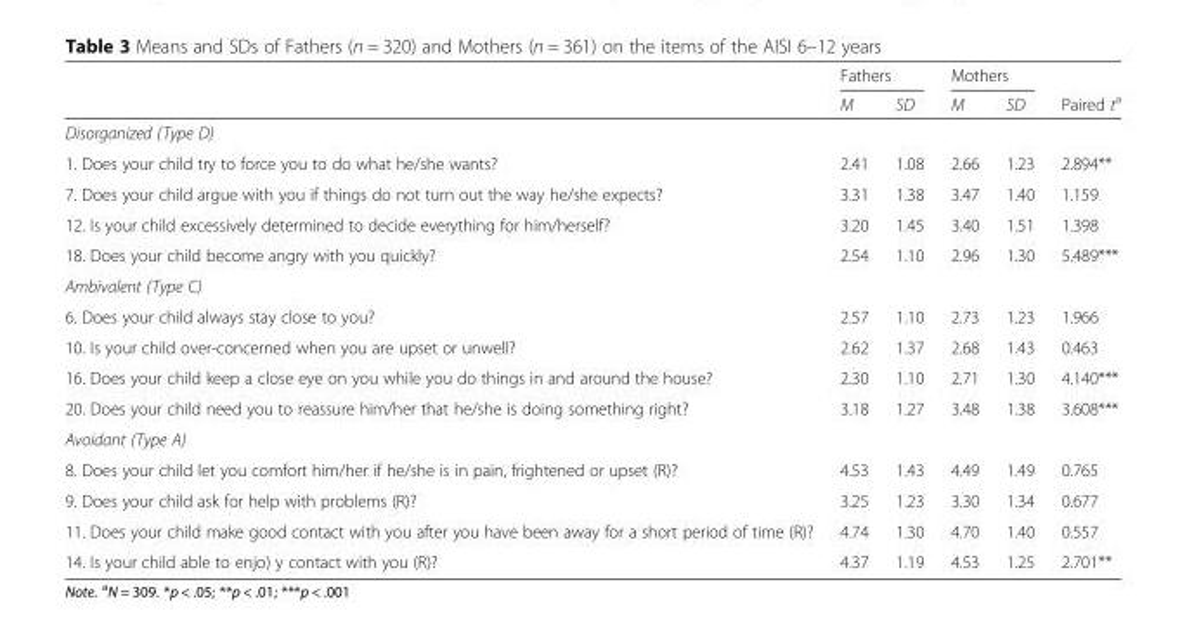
<table><thead><tr><td rowspan="2"></td><td colspan="2">Fathers</td><td colspan="2">Mothers</td><td rowspan="2">Paired t<sup>a</sup></td></tr><tr><td>M</td><td>SD</td><td>M</td><td>SD</td></tr></thead><tbody><tr><td colspan="6">Disorganized (Type D)</td></tr><tr><td>1. Does your child try to force you to do what he/she wants?</td><td>2.41</td><td>1.08</td><td>2.66</td><td>1.23</td><td>2.894**</td></tr><tr><td>7. Does your child argue with you if things do not turn out the way he/she expects?</td><td>3.31</td><td>1.38</td><td>3.47</td><td>1.40</td><td>1.159</td></tr><tr><td>12. Is your child excessively determined to decide everything for him/herself?</td><td>3.20</td><td>1.45</td><td>3.40</td><td>1.51</td><td>1.398</td></tr><tr><td>18. Does your child become angry with you quickly?</td><td>2.54</td><td>1.10</td><td>2.96</td><td>1.30</td><td>5.489***</td></tr><tr><td colspan="6">Ambivalent (Type C)</td></tr><tr><td>6. Does your child always stay close to you?</td><td>2.57</td><td>1.10</td><td>2.73</td><td>1.23</td><td>1.966</td></tr><tr><td>10. Is your child over-concerned when you are upset or unwell?</td><td>2.62</td><td>1.37</td><td>2.68</td><td>1.43</td><td>0.463</td></tr><tr><td>16. Does your child keep a close eye on you while you do things in and around the house?</td><td>2.30</td><td>1.10</td><td>2.71</td><td>1.30</td><td>4.140***</td></tr><tr><td>20. Does your child need you to reassure him/her that he/she is doing something right?</td><td>3.18</td><td>1.27</td><td>3.48</td><td>1.38</td><td>3.608***</td></tr><tr><td colspan="6">Avoidant (Type A)</td></tr><tr><td>8. Does your child let you comfort him/her if he/she is in pain, frightened or upset (R)?</td><td>4.53</td><td>1.43</td><td>4.49</td><td>1.49</td><td>0.765</td></tr><tr><td>9. Does your child ask for help with problems (R)?</td><td>3.25</td><td>1.23</td><td>3.30</td><td>1.34</td><td>0.677</td></tr><tr><td>11. Does your child make good contact with you after you have been away for a short period of time (R)?</td><td>4.74</td><td>1.30</td><td>4.70</td><td>1.40</td><td>0.557</td></tr><tr><td>14. Is your child able to enjo) y contact with you (R)?</td><td>4.37</td><td>1.19</td><td>4.53</td><td>1.25</td><td>2.701**</td></tr></tbody></table>